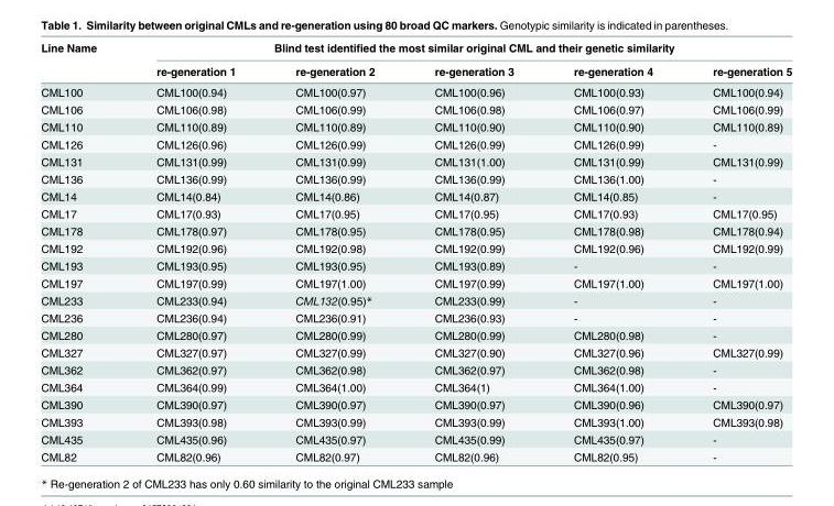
<table><thead><tr><td rowspan="2">Line Name</td><td colspan="5">Blind test identified the most similar original CML and their genetic similarity</td></tr><tr><td>re-generation 1</td><td>re-generation 2</td><td>re-generation 3</td><td>re-generation 4</td><td>re-generation 5</td></tr></thead><tbody><tr><td>CML100</td><td>CML100(0.94)</td><td>CML100(0.97)</td><td>CML100(0.96)</td><td>CML100(0.93)</td><td>CML100(0.94)</td></tr><tr><td>CML106</td><td>CML106(0.98)</td><td>CML106(0.99)</td><td>CML106(0.98)</td><td>CML106(0.97)</td><td>CML106(0.99)</td></tr><tr><td>CML110</td><td>CML110(0.89)</td><td>CML110(0.89)</td><td>CML110(0.90)</td><td>CML110(0.90)</td><td>CML110(0.89)</td></tr><tr><td>CML126</td><td>CML126(0.96)</td><td>CML126(0.99)</td><td>CML126(0.99)</td><td>CML126(0.99)</td><td>-</td></tr><tr><td>CML131</td><td>CML131(0.99)</td><td>CML131(0.99)</td><td>CML131(1.00)</td><td>CML131(0.99)</td><td>CML131(0.99)</td></tr><tr><td>CML136</td><td>CML136(0.99)</td><td>CML136(0.99)</td><td>CML136(0.99)</td><td>CML136(1.00)</td><td>-</td></tr><tr><td>CML14</td><td>CML14(0.84)</td><td>CML14(0.86)</td><td>CML14(0.87)</td><td>CML14(0.85)</td><td>-</td></tr><tr><td>CML17</td><td>CML17(0.93)</td><td>CML17(0.95)</td><td>CML17(0.95)</td><td>CML17(0.93)</td><td>CML17(0.95)</td></tr><tr><td>CML178</td><td>CML178(0.97)</td><td>CML178(0.95)</td><td>CML178(0.95)</td><td>CML178(0.98)</td><td>CML178(0.94)</td></tr><tr><td>CML192</td><td>CML192(0.96)</td><td>CML192(0.98)</td><td>CML192(0.99)</td><td>CML192(0.96)</td><td>CML192(0.99)</td></tr><tr><td>CML193</td><td>CML193(0.95)</td><td>CML193(0.95)</td><td>CML193(0.89)</td><td>-</td><td>-</td></tr><tr><td>CML197</td><td>CML197(0.99)</td><td>CML197(1.00)</td><td>CML197(0.99)</td><td>CML197(1.00)</td><td>CML197(1.00)</td></tr><tr><td>CML233</td><td>CML233(0.94)</td><td>CML132(0.95)*</td><td>CML233(0.99)</td><td>-</td><td>-</td></tr><tr><td>CML236</td><td>CML236(0.94)</td><td>CML236(0.91)</td><td>CML236(0.93)</td><td>-</td><td>-</td></tr><tr><td>CML280</td><td>CML280(0.97)</td><td>CML280(0.99)</td><td>CML280(0.99)</td><td>CML280(0.98)</td><td>-</td></tr><tr><td>CML327</td><td>CML327(0.97)</td><td>CML327(0.99)</td><td>CML327(0.90)</td><td>CML327(0.96)</td><td>CML327(0.99)</td></tr><tr><td>CML362</td><td>CML362(0.97)</td><td>CML362(0.98)</td><td>CML362(0.97)</td><td>CML362(0.98)</td><td>-</td></tr><tr><td>CML364</td><td>CML364(0.99)</td><td>CML364(1.00)</td><td>CML364(1)</td><td>CML364(1.00)</td><td>-</td></tr><tr><td>CML390</td><td>CML390(0.97)</td><td>CML390(0.97)</td><td>CML390(0.97)</td><td>CML390(0.96)</td><td>CML390(0.97)</td></tr><tr><td>CML393</td><td>CML393(0.98)</td><td>CML393(0.99)</td><td>CML393(0.99)</td><td>CML393(1.00)</td><td>CML393(0.98)</td></tr><tr><td>CML435</td><td>CML435(0.96)</td><td>CML435(0.97)</td><td>CML435(0.99)</td><td>CML435(0.97)</td><td>-</td></tr><tr><td>CML82</td><td>CML82(0.96)</td><td>CML82(0.97)</td><td>CML82(0.96)</td><td>CML82(0.95)</td><td>-</td></tr></tbody></table>